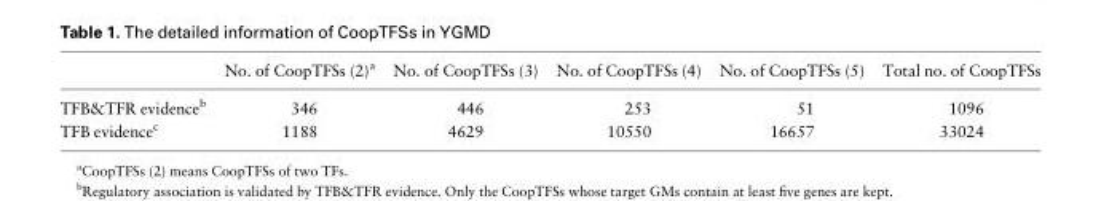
<table><thead><tr><td></td><td>No. of CoopTFSs (2)<sup>a</sup></td><td>No. of CoopTFSs (3)</td><td>No. of CoopTFSs (4)</td><td>No. of CoopTFSs (5)</td><td>Total no. of CoopTFSs</td></tr></thead><tbody><tr><td>TFB&amp;TFR evidence<sup>b</sup></td><td>346</td><td>446</td><td>253</td><td>51</td><td>1096</td></tr><tr><td>TFB evidence<sup>c</sup></td><td>1188</td><td>4629</td><td>10550</td><td>16657</td><td>33024</td></tr></tbody></table>